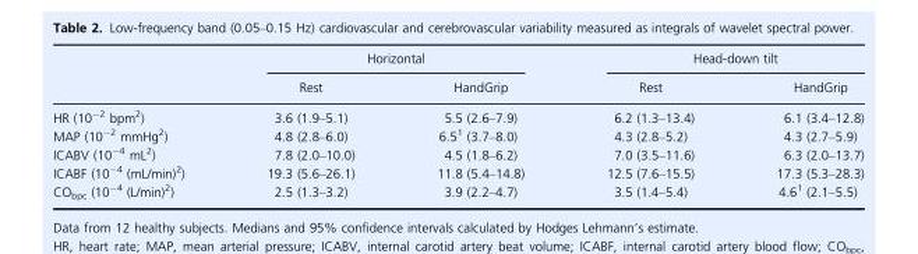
<table><thead><tr><td rowspan="2"></td><td colspan="2">Horizontal</td><td colspan="2">Head-down tilt</td></tr><tr><td>Rest</td><td>HandGrip</td><td>Rest</td><td>HandGrip</td></tr></thead><tbody><tr><td>HR (10<sup>−2</sup> bpm<sup>2</sup>)</td><td>3.6 (1.9–5.1)</td><td>5.5 (2.6–7.9)</td><td>6.2 (1.3–13.4)</td><td>6.1 (3.4–12.8)</td></tr><tr><td>MAP (10<sup>−2</sup> mmHg<sup>2</sup>)</td><td>4.8 (2.8–6.0)</td><td>6.51 (3.7–8.0)</td><td>4.3 (2.8–5.2)</td><td>4.3 (2.7–5.9)</td></tr><tr><td>ICABV (10<sup>−4</sup> mL<sup>2</sup>)</td><td>7.8 (2.0–10.0)</td><td>4.5 (1.8–6.2)</td><td>7.0 (3.5–11.6)</td><td>6.3 (2.0–13.7)</td></tr><tr><td>ICABF (10<sup>−4</sup> (mL/min)<sup>2</sup>)</td><td>19.3 (5.6–26.1)</td><td>11.8 (5.4–14.8)</td><td>12.5 (7.6–15.5)</td><td>17.3 (5.3–28.3)</td></tr><tr><td>CO<sub>bpc</sub> (10<sup>−4</sup> (L/min)<sup>2</sup>)</td><td>2.5 (1.3–3.2)</td><td>3.9 (2.2–4.7)</td><td>3.5 (1.4–5.4)</td><td>4.61 (2.1–5.5)</td></tr></tbody></table>